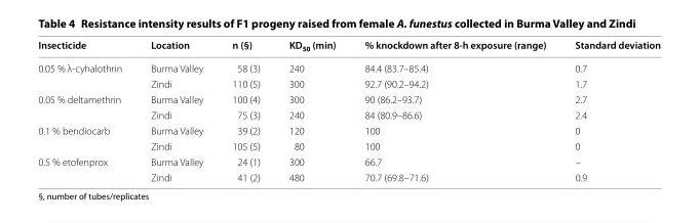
<table><thead><tr><td>Insecticide</td><td>Location</td><td>n (§)</td><td>KD<sub>50</sub> (min)</td><td>% knockdown after 8‑h exposure (range)</td><td>Standard deviation</td></tr></thead><tbody><tr><td rowspan="2">0.05 % λ-cyhalothrin</td><td>Burma Valley</td><td>58 (3)</td><td>240</td><td>84.4 (83.7–85.4)</td><td>0.7</td></tr><tr><td>Zindi</td><td>110 (5)</td><td>300</td><td>92.7 (90.2–94.2)</td><td>1.7</td></tr><tr><td rowspan="2">0.05 % deltamethrin</td><td>Burma Valley</td><td>100 (4)</td><td>300</td><td>90 (86.2–93.7)</td><td>2.7</td></tr><tr><td>Zindi</td><td>75 (3)</td><td>240</td><td>84 (80.9–86.6)</td><td>2.4</td></tr><tr><td rowspan="2">0.1 % bendiocarb</td><td>Burma Valley</td><td>39 (2)</td><td>120</td><td>100</td><td>0</td></tr><tr><td>Zindi</td><td>105 (5)</td><td>80</td><td>100</td><td>0</td></tr><tr><td rowspan="2">0.5 % etofenprox</td><td>Burma Valley</td><td>24 (1)</td><td>300</td><td>66.7</td><td>–</td></tr><tr><td>Zindi</td><td>41 (2)</td><td>480</td><td>70.7 (69.8–71.6)</td><td>0.9</td></tr></tbody></table>